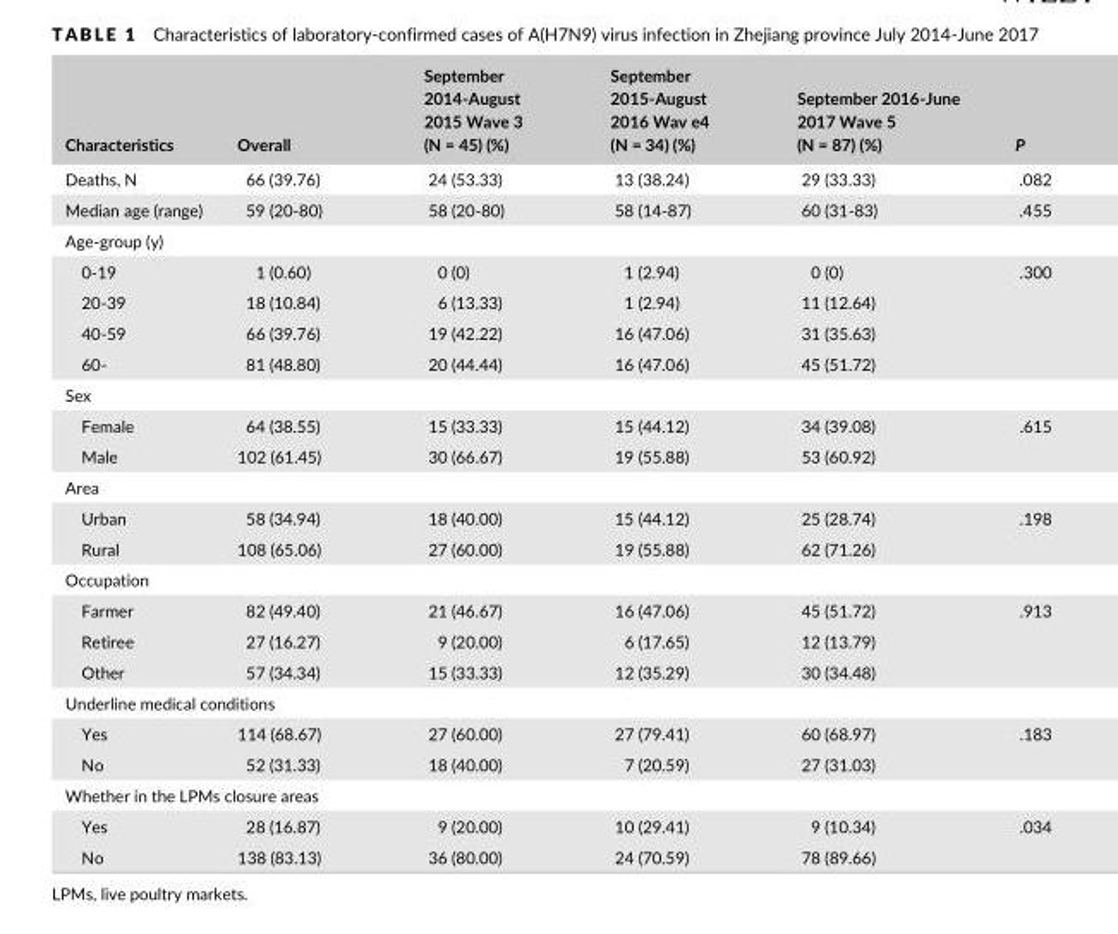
<table><thead><tr><td>Characteristics</td><td>Overall</td><td>September 2014- August 2015 Wave 3 (N = 45) (%)</td><td>September 2015- August 2016 Wav e4 (N = 34) (%)</td><td>September 2016- June 2017 Wave 5 (N = 87) (%)</td><td>P</td></tr></thead><tbody><tr><td>Deaths, N</td><td>66 (39.76)</td><td>24 (53.33)</td><td>13 (38.24)</td><td>29 (33.33)</td><td>.082</td></tr><tr><td>Median age (range)</td><td>59 (20- 80)</td><td>58 (20- 80)</td><td>58 (14- 87)</td><td>60 (31- 83)</td><td>.455</td></tr><tr><td colspan="6">Age- group (y)</td></tr><tr><td>0- 19</td><td>1 (0.60)</td><td>0 (0)</td><td>1 (2.94)</td><td>0 (0)</td><td rowspan="4">.300</td></tr><tr><td>20- 39</td><td>18 (10.84)</td><td>6 (13.33)</td><td>1 (2.94)</td><td>11 (12.64)</td></tr><tr><td>40- 59</td><td>66 (39.76)</td><td>19 (42.22)</td><td>16 (47.06)</td><td>31 (35.63)</td></tr><tr><td>60-</td><td>81 (48.80)</td><td>20 (44.44)</td><td>16 (47.06)</td><td>45 (51.72)</td></tr><tr><td colspan="6">Sex</td></tr><tr><td>Female</td><td>64 (38.55)</td><td>15 (33.33)</td><td>15 (44.12)</td><td>34 (39.08)</td><td rowspan="2">.615</td></tr><tr><td>Male</td><td>102 (61.45)</td><td>30 (66.67)</td><td>19 (55.88)</td><td>53 (60.92)</td></tr><tr><td colspan="6">Area</td></tr><tr><td>Urban</td><td>58 (34.94)</td><td>18 (40.00)</td><td>15 (44.12)</td><td>25 (28.74)</td><td rowspan="2">.198</td></tr><tr><td>Rural</td><td>108 (65.06)</td><td>27 (60.00)</td><td>19 (55.88)</td><td>62 (71.26)</td></tr><tr><td colspan="6">Occupation</td></tr><tr><td>Farmer</td><td>82 (49.40)</td><td>21 (46.67)</td><td>16 (47.06)</td><td>45 (51.72)</td><td rowspan="3">.913</td></tr><tr><td>Retiree</td><td>27 (16.27)</td><td>9 (20.00)</td><td>6 (17.65)</td><td>12 (13.79)</td></tr><tr><td>Other</td><td>57 (34.34)</td><td>15 (33.33)</td><td>12 (35.29)</td><td>30 (34.48)</td></tr><tr><td colspan="6">Underline medical conditions</td></tr><tr><td>Yes</td><td>114 (68.67)</td><td>27 (60.00)</td><td>27 (79.41)</td><td>60 (68.97)</td><td rowspan="2">.183</td></tr><tr><td>No</td><td>52 (31.33)</td><td>18 (40.00)</td><td>7 (20.59)</td><td>27 (31.03)</td></tr><tr><td colspan="6">Whether in the LPMs closure areas</td></tr><tr><td>Yes</td><td>28 (16.87)</td><td>9 (20.00)</td><td>10 (29.41)</td><td>9 (10.34)</td><td rowspan="2">.034</td></tr><tr><td>No</td><td>138 (83.13)</td><td>36 (80.00)</td><td>24 (70.59)</td><td>78 (89.66)</td></tr></tbody></table>